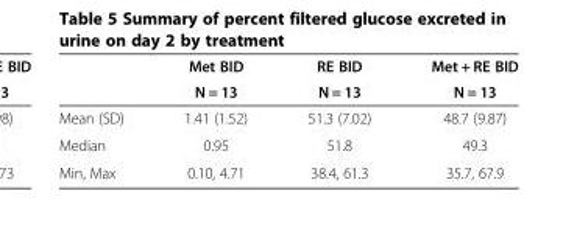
<table><thead><tr><td rowspan="2"></td><td rowspan="2">Met BID N = 13</td><td rowspan="2">RE BID N = 13</td><td rowspan="2">Met + RE BID N = 13</td></tr><tr></tr></thead><tbody><tr><td>Mean (SD)</td><td>1.41 (1.52)</td><td>51.3 (7.02)</td><td>48.7 (9.87)</td></tr><tr><td>Median</td><td>0.95</td><td>51.8</td><td>49.3</td></tr><tr><td>Min, Max</td><td>0.10, 4.71</td><td>38.4, 61.3</td><td>35.7, 67.9</td></tr></tbody></table>